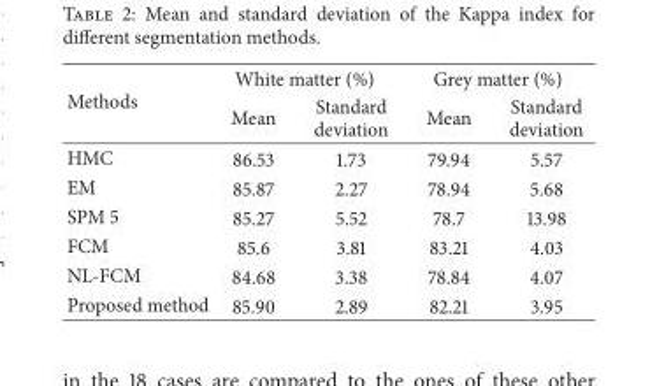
<table><thead><tr><td rowspan="2">Methods</td><td colspan="2">White matter (%)</td><td colspan="2">Grey matter (%)</td></tr><tr><td>Mean</td><td>Standard deviation</td><td>Mean</td><td>Standard deviation</td></tr></thead><tbody><tr><td>HMC</td><td>86.53</td><td>1.73</td><td>79.94</td><td>5.57</td></tr><tr><td>EM</td><td>85.87</td><td>2.27</td><td>78.94</td><td>5.68</td></tr><tr><td>SPM 5</td><td>85.27</td><td>5.52</td><td>78.7</td><td>13.98</td></tr><tr><td>FCM</td><td>85.6</td><td>3.81</td><td>83.21</td><td>4.03</td></tr><tr><td>NL-FCM</td><td>84.68</td><td>3.38</td><td>78.84</td><td>4.07</td></tr><tr><td>Proposed method</td><td>85.90</td><td>2.89</td><td>82.21</td><td>3.95</td></tr></tbody></table>